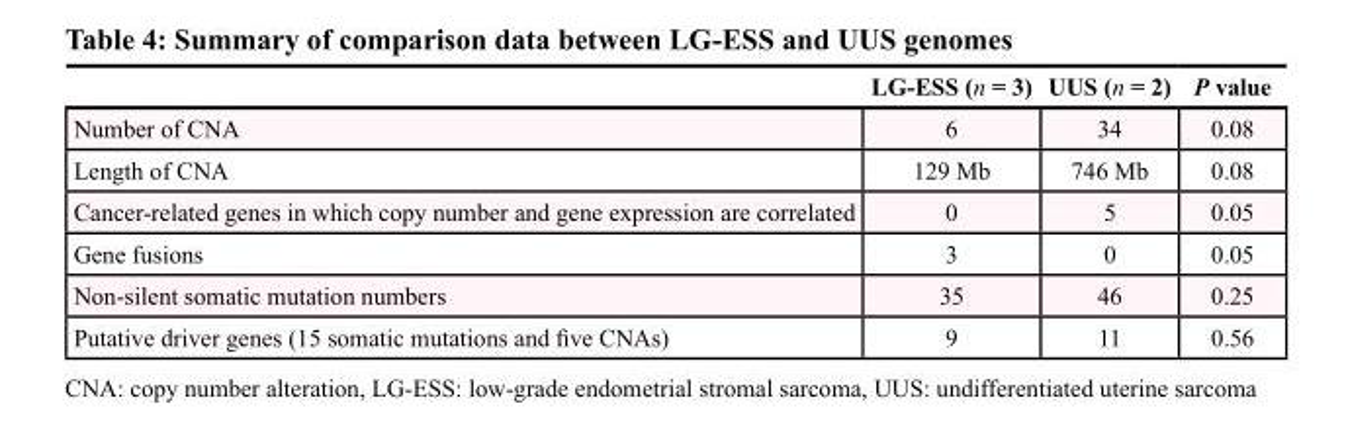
<table><thead><tr><td></td><td>LG-ESS (n = 3)</td><td>UUS (n = 2)</td><td>P value</td></tr></thead><tbody><tr><td>Number of CNA</td><td>6</td><td>34</td><td>0.08</td></tr><tr><td>Length of CNA</td><td>129 Mb</td><td>746 Mb</td><td>0.08</td></tr><tr><td>Cancer-related genes in which copy number and gene expression are correlated</td><td>0</td><td>5</td><td>0.05</td></tr><tr><td>Gene fusions</td><td>3</td><td>0</td><td>0.05</td></tr><tr><td>Non-silent somatic mutation numbers</td><td>35</td><td>46</td><td>0.25</td></tr><tr><td>Putative driver genes (15 somatic mutations and five CNAs)</td><td>9</td><td>11</td><td>0.56</td></tr></tbody></table>